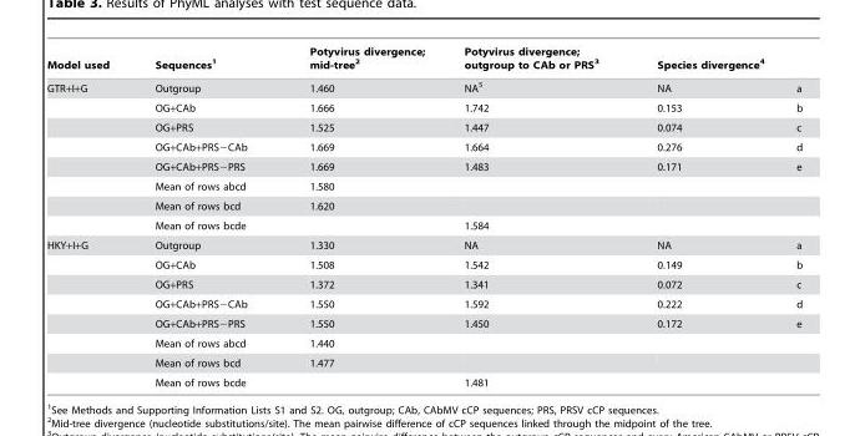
<table><thead><tr><td>Model used</td><td>Sequences<sup>1</sup></td><td>Potyvirus divergence; mid-tree<sup>2</sup></td><td>Potyvirus divergence; outgroup to CAb or PRS<sup>3</sup></td><td>Species divergence<sup>4</sup></td><td></td></tr></thead><tbody><tr><td rowspan="8">GTR+I+G</td><td>Outgroup</td><td>1.460</td><td>NA<sup>5</sup></td><td>NA</td><td>a</td></tr><tr><td>OG+CAb</td><td>1.666</td><td>1.742</td><td>0.153</td><td>b</td></tr><tr><td>OG+PRS</td><td>1.525</td><td>1.447</td><td>0.074</td><td>c</td></tr><tr><td>OG+CAb+PRS−CAb</td><td>1.669</td><td>1.664</td><td>0.276</td><td>d</td></tr><tr><td>OG+CAb+PRS−PRS</td><td>1.669</td><td>1.483</td><td>0.171</td><td>e</td></tr><tr><td>Mean of rows abcd</td><td>1.580</td><td></td><td></td><td></td></tr><tr><td>Mean of rows bcd</td><td>1.620</td><td></td><td></td><td></td></tr><tr><td>Mean of rows bcde</td><td></td><td>1.584</td><td></td><td></td></tr><tr><td rowspan="8">HKY+I+G</td><td>Outgroup</td><td>1.330</td><td>NA</td><td>NA</td><td>a</td></tr><tr><td>OG+CAb</td><td>1.508</td><td>1.542</td><td>0.149</td><td>b</td></tr><tr><td>OG+PRS</td><td>1.372</td><td>1.341</td><td>0.072</td><td>c</td></tr><tr><td>OG+CAb+PRS−CAb</td><td>1.550</td><td>1.592</td><td>0.222</td><td>d</td></tr><tr><td>OG+CAb+PRS−PRS</td><td>1.550</td><td>1.450</td><td>0.172</td><td>e</td></tr><tr><td>Mean of rows abcd</td><td>1.440</td><td></td><td></td><td></td></tr><tr><td>Mean of rows bcd</td><td>1.477</td><td></td><td></td><td></td></tr><tr><td>Mean of rows bcde</td><td></td><td>1.481</td><td></td><td></td></tr></tbody></table>